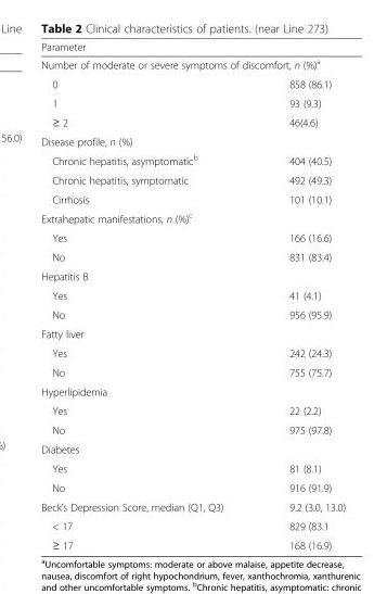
<table><thead><tr><td rowspan="2" colspan="2">Parameter Number of moderate or severe symptoms of discomfort, n (%)<sup>a</sup></td></tr><tr></tr><tr><td>0</td><td>858 (86.1)</td></tr></thead><tbody><tr><td>1</td><td>93 (9.3)</td></tr><tr><td>≥ 2</td><td>46(4.6)</td></tr><tr><td colspan="2">Disease profile, n (%)</td></tr><tr><td>Chronic hepatitis, asymptomatic<sup>b</sup></td><td>404 (40.5)</td></tr><tr><td>Chronic hepatitis, symptomatic</td><td>492 (49.3)</td></tr><tr><td>Cirrhosis</td><td>101 (10.1)</td></tr><tr><td colspan="2">Extrahepatic manifestations, n (%)<sup>c</sup></td></tr><tr><td>Yes</td><td>166 (16.6)</td></tr><tr><td>No</td><td>831 (83.4)</td></tr><tr><td colspan="2">Hepatitis B</td></tr><tr><td>Yes</td><td>41 (4.1)</td></tr><tr><td>No</td><td>956 (95.9)</td></tr><tr><td colspan="2">Fatty liver</td></tr><tr><td>Yes</td><td>242 (24.3)</td></tr><tr><td>No</td><td>755 (75.7)</td></tr><tr><td colspan="2">Hyperlipidemia</td></tr><tr><td>Yes</td><td>22 (2.2)</td></tr><tr><td>No</td><td>975 (97.8)</td></tr><tr><td colspan="2">Diabetes</td></tr><tr><td>Yes</td><td>81 (8.1)</td></tr><tr><td>No</td><td>916 (91.9)</td></tr><tr><td>Beck’s Depression Score, median (Q1, Q3)</td><td>9.2 (3.0, 13.0)</td></tr><tr><td>&lt; 17</td><td>829 (83.1</td></tr><tr><td>≥ 17</td><td>168 (16.9)</td></tr></tbody></table>